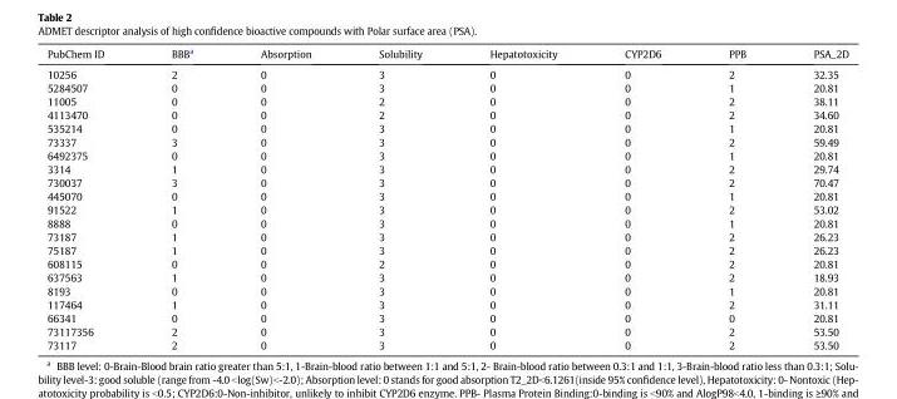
<table><thead><tr><td>PubChem ID</td><td>BBB<sup>a</sup></td><td>Absorption</td><td>Solubility</td><td>Hepatotoxicity</td><td>CYP2D6</td><td>PPB</td><td>PSA_2D</td></tr></thead><tbody><tr><td>10256</td><td>2</td><td>0</td><td>3</td><td>0</td><td>0</td><td>2</td><td>32.35</td></tr><tr><td>5284507</td><td>0</td><td>0</td><td>3</td><td>0</td><td>0</td><td>1</td><td>20.81</td></tr><tr><td>11005</td><td>0</td><td>0</td><td>2</td><td>0</td><td>0</td><td>2</td><td>38.11</td></tr><tr><td>4113470</td><td>0</td><td>0</td><td>2</td><td>0</td><td>0</td><td>2</td><td>34.60</td></tr><tr><td>535214</td><td>0</td><td>0</td><td>3</td><td>0</td><td>0</td><td>1</td><td>20.81</td></tr><tr><td>73337</td><td>3</td><td>0</td><td>3</td><td>0</td><td>0</td><td>2</td><td>59.49</td></tr><tr><td>6492375</td><td>0</td><td>0</td><td>3</td><td>0</td><td>0</td><td>1</td><td>20.81</td></tr><tr><td>3314</td><td>1</td><td>0</td><td>3</td><td>0</td><td>0</td><td>2</td><td>29.74</td></tr><tr><td>730037</td><td>3</td><td>0</td><td>3</td><td>0</td><td>0</td><td>2</td><td>70.47</td></tr><tr><td>445070</td><td>0</td><td>0</td><td>3</td><td>0</td><td>0</td><td>1</td><td>20.81</td></tr><tr><td>91522</td><td>1</td><td>0</td><td>3</td><td>0</td><td>0</td><td>2</td><td>53.02</td></tr><tr><td>8888</td><td>0</td><td>0</td><td>3</td><td>0</td><td>0</td><td>1</td><td>20.81</td></tr><tr><td>73187</td><td>1</td><td>0</td><td>3</td><td>0</td><td>0</td><td>2</td><td>26.23</td></tr><tr><td>75187</td><td>1</td><td>0</td><td>3</td><td>0</td><td>0</td><td>2</td><td>26.23</td></tr><tr><td>608115</td><td>0</td><td>0</td><td>2</td><td>0</td><td>0</td><td>2</td><td>20.81</td></tr><tr><td>637563</td><td>1</td><td>0</td><td>3</td><td>0</td><td>0</td><td>2</td><td>18.93</td></tr><tr><td>8193</td><td>0</td><td>0</td><td>3</td><td>0</td><td>0</td><td>1</td><td>20.81</td></tr><tr><td>117464</td><td>1</td><td>0</td><td>3</td><td>0</td><td>0</td><td>2</td><td>31.11</td></tr><tr><td>66341</td><td>0</td><td>0</td><td>3</td><td>0</td><td>0</td><td>0</td><td>20.81</td></tr><tr><td>73117356</td><td>2</td><td>0</td><td>3</td><td>0</td><td>0</td><td>2</td><td>53.50</td></tr><tr><td>73117</td><td>2</td><td>0</td><td>3</td><td>0</td><td>0</td><td>2</td><td>53.50</td></tr></tbody></table>